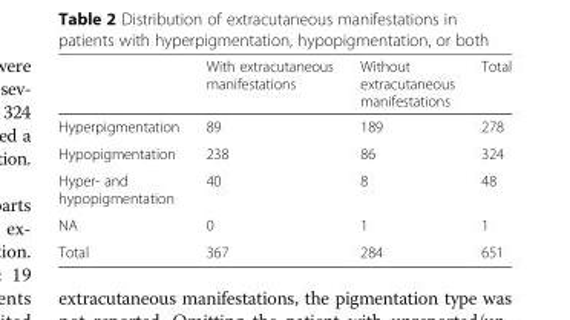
<table><thead><tr><td></td><td>With extracutaneous manifestations</td><td>Without extracutaneous manifestations</td><td>Total</td></tr></thead><tbody><tr><td>Hyperpigmentation</td><td>89</td><td>189</td><td>278</td></tr><tr><td>Hypopigmentation</td><td>238</td><td>86</td><td>324</td></tr><tr><td>Hyper- and hypopigmentation</td><td>40</td><td>8</td><td>48</td></tr><tr><td>NA</td><td>0</td><td>1</td><td>1</td></tr><tr><td>Total</td><td>367</td><td>284</td><td>651</td></tr></tbody></table>